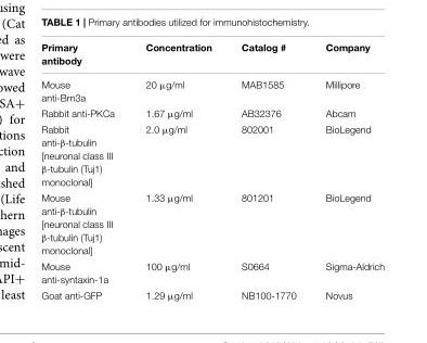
<table><thead><tr><td>Primary antibody</td><td>Concentration</td><td>Catalog #</td><td>Company</td></tr></thead><tbody><tr><td>Mouse anti-Brn3a</td><td>20 µg/ml</td><td>MAB1585</td><td>Millipore</td></tr><tr><td>Rabbit anti-PKCa</td><td>1.67 µg/ml</td><td>AB32376</td><td>Abcam</td></tr><tr><td>Rabbit anti-β-tubulin [neuronal class III β-tubulin (Tuj1) monoclonal]</td><td>2.0 µg/ml</td><td>802001</td><td>BioLegend</td></tr><tr><td>Mouse anti-β-tubulin [neuronal class III β-tubulin (Tuj1) monoclonal]</td><td>1.33 µg/ml</td><td>801201</td><td>BioLegend</td></tr><tr><td>Mouse anti-syntaxin-1a</td><td>100 µg/ml</td><td>S0664</td><td>Sigma-Aldrich</td></tr><tr><td>Goat anti-GFP</td><td>1.29 µg/ml</td><td>NB100-1770</td><td>Novus</td></tr></tbody></table>